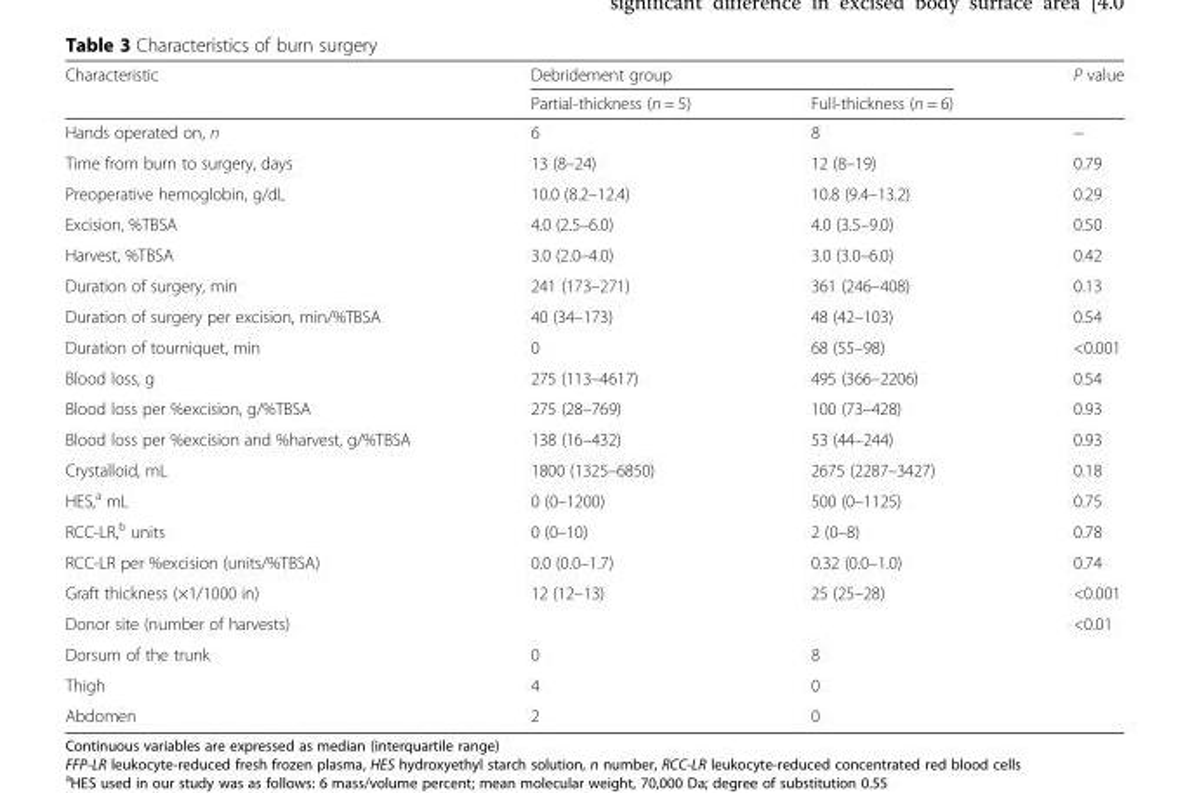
<table><thead><tr><td rowspan="2">Characteristic</td><td colspan="2">Debridement group</td><td rowspan="2">P value</td></tr><tr><td>Partial-thickness (n = 5)</td><td>Full-thickness (n = 6)</td></tr></thead><tbody><tr><td>Hands operated on, n</td><td>6</td><td>8</td><td>−</td></tr><tr><td>Time from burn to surgery, days</td><td>13 (8–24)</td><td>12 (8–19)</td><td>0.79</td></tr><tr><td>Preoperative hemoglobin, g/dL</td><td>10.0 (8.2–12.4)</td><td>10.8 (9.4–13.2)</td><td>0.29</td></tr><tr><td>Excision, %TBSA</td><td>4.0 (2.5–6.0)</td><td>4.0 (3.5–9.0)</td><td>0.50</td></tr><tr><td>Harvest, %TBSA</td><td>3.0 (2.0–4.0)</td><td>3.0 (3.0–6.0)</td><td>0.42</td></tr><tr><td>Duration of surgery, min</td><td>241 (173–271)</td><td>361 (246–408)</td><td>0.13</td></tr><tr><td>Duration of surgery per excision, min/%TBSA</td><td>40 (34–173)</td><td>48 (42–103)</td><td>0.54</td></tr><tr><td>Duration of tourniquet, min</td><td>0</td><td>68 (55–98)</td><td>&lt;0.001</td></tr><tr><td>Blood loss, g</td><td>275 (113–4617)</td><td>495 (366–2206)</td><td>0.54</td></tr><tr><td>Blood loss per %excision, g/%TBSA</td><td>275 (28–769)</td><td>100 (73–428)</td><td>0.93</td></tr><tr><td>Blood loss per %excision and %harvest, g/%TBSA</td><td>138 (16–432)</td><td>53 (44–244)</td><td>0.93</td></tr><tr><td>Crystalloid, mL</td><td>1800 (1325–6850)</td><td>2675 (2287–3427)</td><td>0.18</td></tr><tr><td>HES,<sup>a</sup> mL</td><td>0 (0–1200)</td><td>500 (0–1125)</td><td>0.75</td></tr><tr><td>RCC-LR,<sup>b</sup> units</td><td>0 (0–10)</td><td>2 (0–8)</td><td>0.78</td></tr><tr><td>RCC-LR per %excision (units/%TBSA)</td><td>0.0 (0.0–1.7)</td><td>0.32 (0.0–1.0)</td><td>0.74</td></tr><tr><td>Graft thickness (×1/1000 in)</td><td>12 (12–13)</td><td>25 (25–28)</td><td>&lt;0.001</td></tr><tr><td>Donor site (number of harvests)</td><td></td><td></td><td>&lt;0.01</td></tr><tr><td>Dorsum of the trunk</td><td>0</td><td>8</td><td></td></tr><tr><td>Thigh</td><td>4</td><td>0</td><td></td></tr><tr><td>Abdomen</td><td>2</td><td>0</td><td></td></tr></tbody></table>